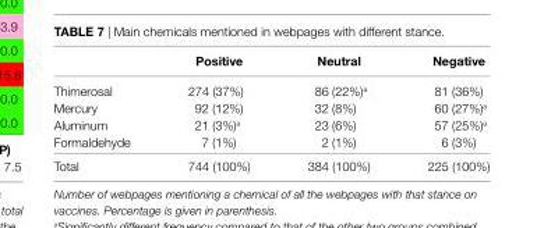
<table><thead><tr><td></td><td>Positive</td><td>neutral</td><td>negative</td></tr></thead><tbody><tr><td>Thimerosal</td><td>274 (37%)</td><td>86 (22%)<sup>a</sup></td><td>81 (36%)</td></tr><tr><td>Mercury</td><td>92 (12%)</td><td>32 (8%)</td><td>60 (27%)<sup>a</sup></td></tr><tr><td>Aluminum</td><td>21 (3%)<sup>a</sup></td><td>23 (6%)</td><td>57 (25%)<sup>a</sup></td></tr><tr><td>Formaldehyde</td><td>7 (1%)</td><td>2 (1%)</td><td>6 (3%)</td></tr><tr><td>Total</td><td>744 (100%)</td><td>384 (100%)</td><td>225 (100%)</td></tr></tbody></table>